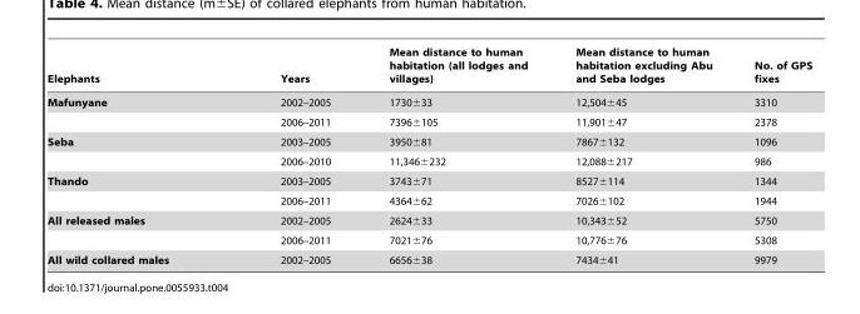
<table><thead><tr><td>Elephants</td><td>Years</td><td>Mean distance to human habitation (all lodges and villages)</td><td>Mean distance to human habitation excluding Abu and Seba lodges</td><td>No. of GPS fixes</td></tr></thead><tbody><tr><td rowspan="2">Mafunyane</td><td>2002–2005</td><td>1730±33</td><td>12,504±45</td><td>3310</td></tr><tr><td>2006–2011</td><td>7396±105</td><td>11,901±47</td><td>2378</td></tr><tr><td rowspan="2">Seba</td><td>2003–2005</td><td>3950±81</td><td>7867±132</td><td>1096</td></tr><tr><td>2006–2010</td><td>11,346±232</td><td>12,088±217</td><td>986</td></tr><tr><td rowspan="2">Thando</td><td>2003–2005</td><td>3743±71</td><td>8527±114</td><td>1344</td></tr><tr><td>2006–2011</td><td>4364±62</td><td>7026±102</td><td>1944</td></tr><tr><td rowspan="2">All released males</td><td>2002–2005</td><td>2624±33</td><td>10,343±52</td><td>5750</td></tr><tr><td>2006–2011</td><td>7021±76</td><td>10,776±76</td><td>5308</td></tr><tr><td>All wild collared males</td><td>2002–2005</td><td>6656±38</td><td>7434±41</td><td>9979</td></tr></tbody></table>